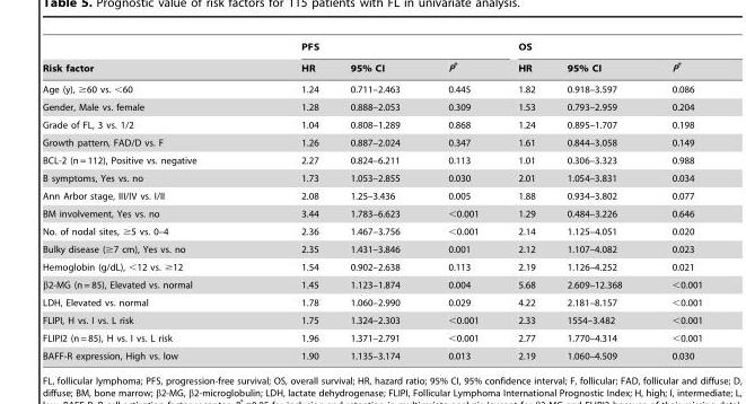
<table><thead><tr><td rowspan="2">Risk factor</td><td colspan="3">PFS</td><td colspan="3">OS</td></tr><tr><td>HR</td><td>95% CI</td><td>P*</td><td>HR</td><td>95% CI</td><td>P*</td></tr></thead><tbody><tr><td>Age (y), ≥60 vs. &lt;60</td><td>1.24</td><td>0.711–2.463</td><td>0.445</td><td>1.82</td><td>0.918–3.597</td><td>0.086</td></tr><tr><td>Gender, Male vs. female</td><td>1.28</td><td>0.888–2.053</td><td>0.309</td><td>1.53</td><td>0.793–2.959</td><td>0.204</td></tr><tr><td>Grade of FL, 3 vs. 1/2</td><td>1.04</td><td>0.808–1.289</td><td>0.868</td><td>1.24</td><td>0.895–1.707</td><td>0.198</td></tr><tr><td>Growth pattern, FAD/D vs. F</td><td>1.26</td><td>0.887–2.024</td><td>0.347</td><td>1.61</td><td>0.844–3.058</td><td>0.149</td></tr><tr><td>BCL-2 (n = 112), Positive vs. negative</td><td>2.27</td><td>0.824–6.211</td><td>0.113</td><td>1.01</td><td>0.306–3.323</td><td>0.988</td></tr><tr><td>B symptoms, Yes vs. no</td><td>1.73</td><td>1.053–2.855</td><td>0.030</td><td>2.01</td><td>1.054–3.831</td><td>0.034</td></tr><tr><td>Ann Arbor stage, III/IV vs. I/II</td><td>2.08</td><td>1.25–3.436</td><td>0.005</td><td>1.88</td><td>0.934–3.802</td><td>0.077</td></tr><tr><td>BM involvement, Yes vs. no</td><td>3.44</td><td>1.783–6.623</td><td>&lt;0.001</td><td>1.29</td><td>0.484–3.226</td><td>0.646</td></tr><tr><td>No. of nodal sites, ≥5 vs. 0–4</td><td>2.36</td><td>1.467–3.756</td><td>&lt;0.001</td><td>2.14</td><td>1.125–4.051</td><td>0.020</td></tr><tr><td>Bulky disease (≥7 cm), Yes vs. no</td><td>2.35</td><td>1.431–3.846</td><td>0.001</td><td>2.12</td><td>1.107–4.082</td><td>0.023</td></tr><tr><td>Hemoglobin (g/dL), &lt;12 vs. ≥12</td><td>1.54</td><td>0.902–2.638</td><td>0.113</td><td>2.19</td><td>1.126–4.252</td><td>0.021</td></tr><tr><td>β2-MG (n = 85), Elevated vs. normal</td><td>1.45</td><td>1.123–1.874</td><td>0.004</td><td>5.68</td><td>2.609–12.368</td><td>&lt;0.001</td></tr><tr><td>LDH, Elevated vs. normal</td><td>1.78</td><td>1.060–2.990</td><td>0.029</td><td>4.22</td><td>2.181–8.157</td><td>&lt;0.001</td></tr><tr><td>FLIPI, H vs. I vs. L risk</td><td>1.75</td><td>1.324–2.303</td><td>&lt;0.001</td><td>2.33</td><td>1554–3.482</td><td>&lt;0.001</td></tr><tr><td>FLIPI2 (n = 85), H vs. I vs. L risk</td><td>1.96</td><td>1.371–2.791</td><td>&lt;0.001</td><td>2.77</td><td>1.770–4.314</td><td>&lt;0.001</td></tr><tr><td>BAFF-R expression, High vs. low</td><td>1.90</td><td>1.135–3.174</td><td>0.013</td><td>2.19</td><td>1.060–4.509</td><td>0.030</td></tr></tbody></table>